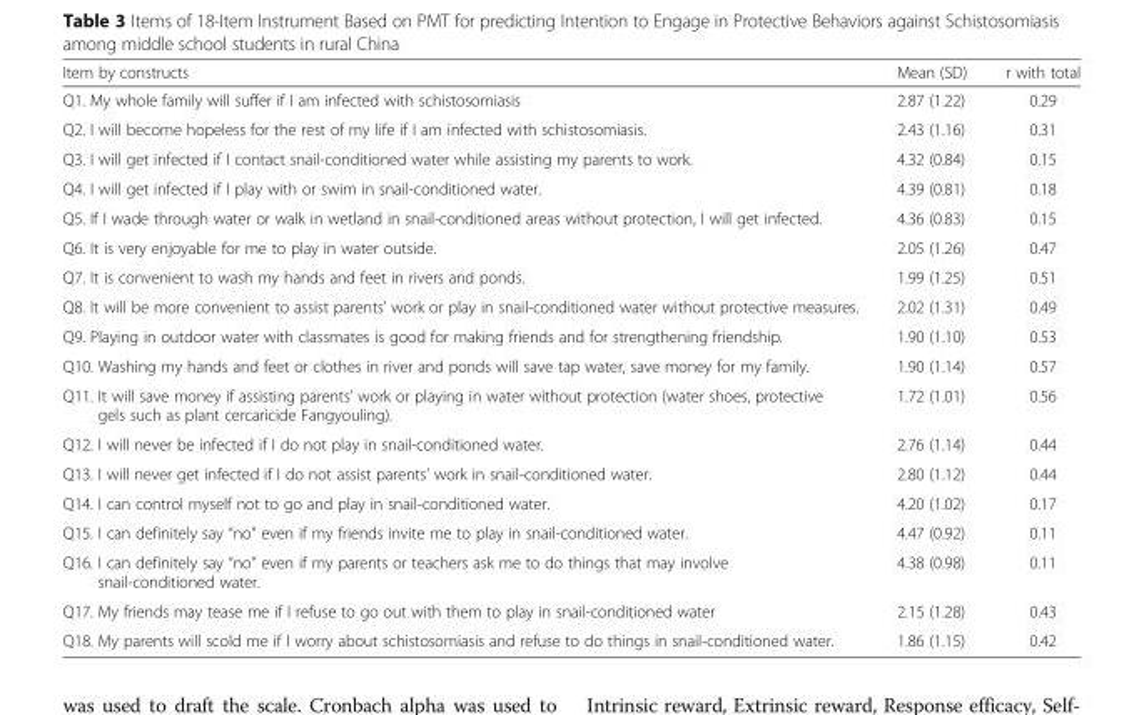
<table><thead><tr><td>Item by constructs</td><td>Mean (SD)</td><td>r with total</td></tr></thead><tbody><tr><td>Q1. My whole family will suffer if I am infected with schistosomiasis</td><td>2.87 (1.22)</td><td>0.29</td></tr><tr><td>Q2. I will become hopeless for the rest of my life if I am infected with schistosomiasis.</td><td>2.43 (1.16)</td><td>0.31</td></tr><tr><td>Q3. I will get infected if I contact snail-conditioned water while assisting my parents to work.</td><td>4.32 (0.84)</td><td>0.15</td></tr><tr><td>Q4. I will get infected if I play with or swim in snail-conditioned water.</td><td>4.39 (0.81)</td><td>0.18</td></tr><tr><td>Q5. If I wade through water or walk in wetland in snail-conditioned areas without protection, I will get infected.</td><td>4.36 (0.83)</td><td>0.15</td></tr><tr><td>Q6. It is very enjoyable for me to play in water outside.</td><td>2.05 (1.26)</td><td>0.47</td></tr><tr><td>Q7. It is convenient to wash my hands and feet in rivers and ponds.</td><td>1.99 (1.25)</td><td>0.51</td></tr><tr><td>Q8. It will be more convenient to assist parents’ work or play in snail-conditioned water without protective measures.</td><td>2.02 (1.31)</td><td>0.49</td></tr><tr><td>Q9. Playing in outdoor water with classmates is good for making friends and for strengthening friendship.</td><td>1.90 (1.10)</td><td>0.53</td></tr><tr><td>Q10. Washing my hands and feet or clothes in river and ponds will save tap water, save money for my family.</td><td>1.90 (1.14)</td><td>0.57</td></tr><tr><td>Q11. It will save money if assisting parents’ work or playing in water without protection (water shoes, protective gels such as plant cercaricide Fangyouling).</td><td>1.72 (1.01)</td><td>0.56</td></tr><tr><td>Q12. I will never be infected if I do not play in snail-conditioned water.</td><td>2.76 (1.14)</td><td>0.44</td></tr><tr><td>Q13. I will never get infected if I do not assist parents’ work in snail-conditioned water.</td><td>2.80 (1.12)</td><td>0.44</td></tr><tr><td>Q14. I can control myself not to go and play in snail-conditioned water.</td><td>4.20 (1.02)</td><td>0.17</td></tr><tr><td>Q15. I can definitely say “no” even if my friends invite me to play in snail-conditioned water.</td><td>4.47 (0.92)</td><td>0.11</td></tr><tr><td>Q16. I can definitely say “no” even if my parents or teachers ask me to do things that may involve snail-conditioned water.</td><td>4.38 (0.98)</td><td>0.11</td></tr><tr><td>Q17. My friends may tease me if I refuse to go out with them to play in snail-conditioned water</td><td>2.15 (1.28)</td><td>0.43</td></tr><tr><td>Q18. My parents will scold me if I worry about schistosomiasis and refuse to do things in snail-conditioned water.</td><td>1.86 (1.15)</td><td>0.42</td></tr></tbody></table>